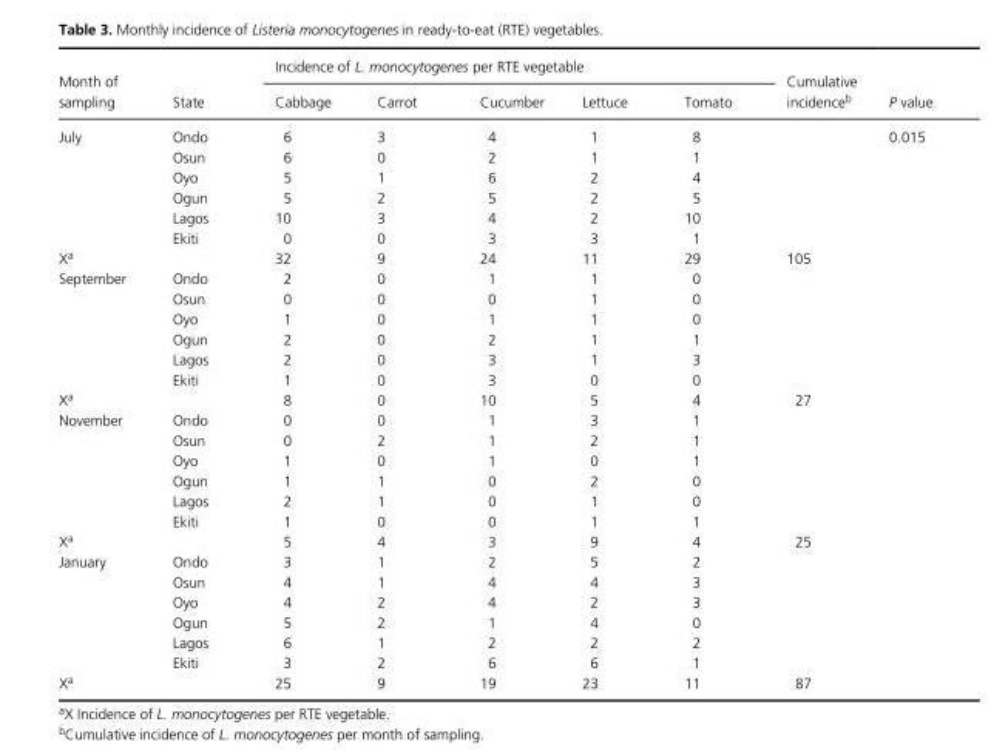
<table><thead><tr><td rowspan="2">Month of sampling</td><td rowspan="2">State</td><td colspan="5">Incidence of L. monocytogenes per RTE vegetable</td><td rowspan="2">Cumulative incidence <sup>b</sup></td><td rowspan="2">P value</td></tr><tr><td>Cabbage</td><td>Carrot</td><td>Cucumber</td><td>Lettuce</td><td>Tomato</td></tr></thead><tbody><tr><td rowspan="6">July</td><td>Ondo</td><td>6</td><td>3</td><td>4</td><td>1</td><td>8</td><td></td><td>0.015</td></tr><tr><td>Osun</td><td>6</td><td>0</td><td>2</td><td>1</td><td>1</td><td></td><td></td></tr><tr><td>Oyo</td><td>5</td><td>1</td><td>6</td><td>2</td><td>4</td><td></td><td></td></tr><tr><td>Ogun</td><td>5</td><td>2</td><td>5</td><td>2</td><td>5</td><td></td><td></td></tr><tr><td>Lagos</td><td>10</td><td>3</td><td>4</td><td>2</td><td>10</td><td></td><td></td></tr><tr><td>Ekiti</td><td>0</td><td>0</td><td>3</td><td>3</td><td>1</td><td></td><td></td></tr><tr><td>X <sup>a</sup></td><td></td><td>32</td><td>9</td><td>24</td><td>11</td><td>29</td><td>105</td><td></td></tr><tr><td rowspan="6">September</td><td>Ondo</td><td>2</td><td>0</td><td>1</td><td>1</td><td>0</td><td></td><td></td></tr><tr><td>Osun</td><td>0</td><td>0</td><td>0</td><td>1</td><td>0</td><td></td><td></td></tr><tr><td>Oyo</td><td>1</td><td>0</td><td>1</td><td>1</td><td>0</td><td></td><td></td></tr><tr><td>Ogun</td><td>2</td><td>0</td><td>2</td><td>1</td><td>1</td><td></td><td></td></tr><tr><td>Lagos</td><td>2</td><td>0</td><td>3</td><td>1</td><td>3</td><td></td><td></td></tr><tr><td>Ekiti</td><td>1</td><td>0</td><td>3</td><td>0</td><td>0</td><td></td><td></td></tr><tr><td>X <sup>a</sup></td><td></td><td>8</td><td>0</td><td>10</td><td>5</td><td>4</td><td>27</td><td></td></tr><tr><td rowspan="6">November</td><td>Ondo</td><td>0</td><td>0</td><td>1</td><td>3</td><td>1</td><td></td><td></td></tr><tr><td>Osun</td><td>0</td><td>2</td><td>1</td><td>2</td><td>1</td><td></td><td></td></tr><tr><td>Oyo</td><td>1</td><td>0</td><td>1</td><td>0</td><td>1</td><td></td><td></td></tr><tr><td>Ogun</td><td>1</td><td>1</td><td>0</td><td>2</td><td>0</td><td></td><td></td></tr><tr><td>Lagos</td><td>2</td><td>1</td><td>0</td><td>1</td><td>0</td><td></td><td></td></tr><tr><td>Ekiti</td><td>1</td><td>0</td><td>0</td><td>1</td><td>1</td><td></td><td></td></tr><tr><td>X <sup>a</sup></td><td></td><td>5</td><td>4</td><td>3</td><td>9</td><td>4</td><td>25</td><td></td></tr><tr><td rowspan="6">January</td><td>Ondo</td><td>3</td><td>1</td><td>2</td><td>5</td><td>2</td><td></td><td></td></tr><tr><td>Osun</td><td>4</td><td>1</td><td>4</td><td>4</td><td>3</td><td></td><td></td></tr><tr><td>Oyo</td><td>4</td><td>2</td><td>4</td><td>2</td><td>3</td><td></td><td></td></tr><tr><td>Ogun</td><td>5</td><td>2</td><td>1</td><td>4</td><td>0</td><td></td><td></td></tr><tr><td>Lagos</td><td>6</td><td>1</td><td>2</td><td>2</td><td>2</td><td></td><td></td></tr><tr><td>Ekiti</td><td>3</td><td>2</td><td>6</td><td>6</td><td>1</td><td></td><td></td></tr><tr><td>X <sup>a</sup></td><td></td><td>25</td><td>9</td><td>19</td><td>23</td><td>11</td><td>87</td><td></td></tr></tbody></table>